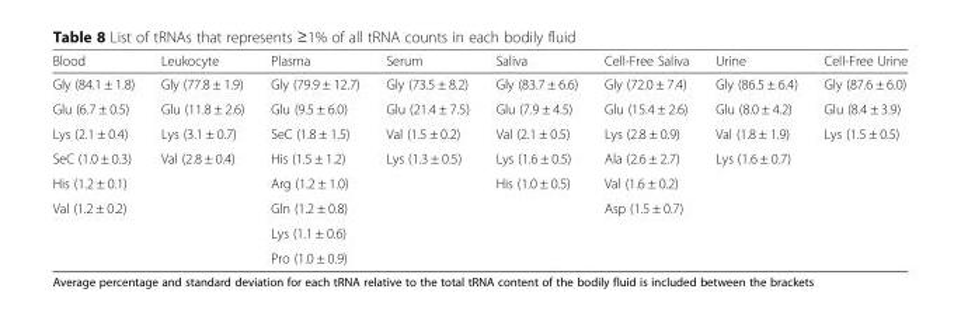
<table><thead><tr><td>Blood</td><td>Leukocyte</td><td>Plasma</td><td>Serum</td><td>Saliva</td><td>Cell-Free Saliva</td><td>Urine</td><td>Cell-Free Urine</td></tr></thead><tbody><tr><td>Gly (84.1 ± 1.8)</td><td>Gly (77.8 ± 1.9)</td><td>Gly (79.9 ± 12.7)</td><td>Gly (73.5 ± 8.2)</td><td>Gly (83.7 ± 6.6)</td><td>Gly (72.0 ± 7.4)</td><td>Gly (86.5 ± 6.4)</td><td>Gly (87.6 ± 6.0)</td></tr><tr><td>Glu (6.7 ± 0.5)</td><td>Glu (11.8 ± 2.6)</td><td>Glu (9.5 ± 6.0)</td><td>Glu (21.4 ± 7.5)</td><td>Glu (7.9 ± 4.5)</td><td>Glu (15.4 ± 2.6)</td><td>Glu (8.0 ± 4.2)</td><td>Glu (8.4 ± 3.9)</td></tr><tr><td>Lys (2.1 ± 0.4)</td><td>Lys (3.1 ± 0.7)</td><td>SeC (1.8 ± 1.5)</td><td>Val (1.5 ± 0.2)</td><td>Val (2.1 ± 0.5)</td><td>Lys (2.8 ± 0.9)</td><td>Val (1.8 ± 1.9)</td><td>Lys (1.5 ± 0.5)</td></tr><tr><td>SeC (1.0 ± 0.3)</td><td>Val (2.8 ± 0.4)</td><td>His (1.5 ± 1.2)</td><td>Lys (1.3 ± 0.5)</td><td>Lys (1.6 ± 0.5)</td><td>Ala (2.6 ± 2.7)</td><td>Lys (1.6 ± 0.7)</td><td></td></tr><tr><td>His (1.2 ± 0.1)</td><td></td><td>Arg (1.2 ± 1.0)</td><td></td><td>His (1.0 ± 0.5)</td><td>Val (1.6 ± 0.2)</td><td></td><td></td></tr><tr><td rowspan="3">Val (1.2 ± 0.2)</td><td></td><td>Gln (1.2 ± 0.8)</td><td></td><td></td><td>Asp (1.5 ± 0.7)</td><td></td><td></td></tr><tr><td></td><td>Lys (1.1 ± 0.6)</td><td></td><td></td><td></td><td></td><td></td></tr><tr><td></td><td>Pro (1.0 ± 0.9)</td><td></td><td></td><td></td><td></td><td></td></tr></tbody></table>